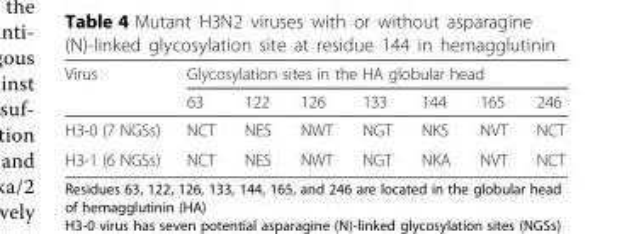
<table><thead><tr><td rowspan="2">Virus</td><td colspan="7">Glycosylation sites in the HA globular head</td></tr><tr><td>63</td><td>122</td><td>126</td><td>133</td><td>144</td><td>165</td><td>246</td></tr></thead><tbody><tr><td>H3-0 (7 NGSs)</td><td>NCT</td><td>NES</td><td>NWT</td><td>NGT</td><td>NKS</td><td>NVT</td><td>NCT</td></tr><tr><td>H3-1 (6 NGSs)</td><td>NCT</td><td>NES</td><td>NWT</td><td>NGT</td><td>NKA</td><td>NVT</td><td>NCT</td></tr></tbody></table>